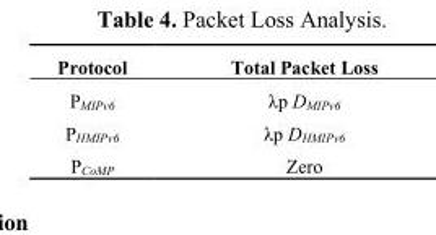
<table><thead><tr><td>Protocol</td><td>Total Packet Loss</td></tr></thead><tbody><tr><td>P<sub>MIPv6</sub></td><td>λp D<sub>MIPv6</sub></td></tr><tr><td>P<sub>HMIPv6</sub></td><td>λp D<sub>HMIPv6</sub></td></tr><tr><td>P<sub>CoMP</sub></td><td>Zero</td></tr></tbody></table>